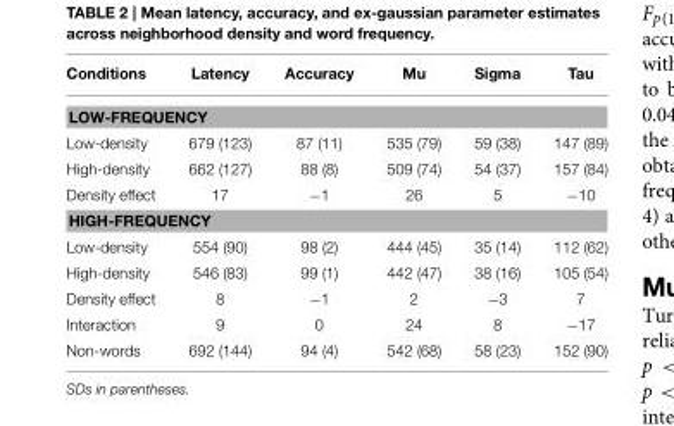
<table><thead><tr><td>Conditions</td><td>Latency</td><td>Accuracy</td><td>Mu</td><td>Sigma</td><td>Tau</td></tr></thead><tbody><tr><td colspan="6">LOW-FREQUENCY</td></tr><tr><td>Low-density</td><td>679 (123)</td><td>87 (11)</td><td>535 (79)</td><td>59 (38)</td><td>147 (89)</td></tr><tr><td>High-density</td><td>662 (127)</td><td>88 (8)</td><td>509 (74)</td><td>54 (37)</td><td>157 (84)</td></tr><tr><td>Density effect</td><td>17</td><td>−1</td><td>26</td><td>5</td><td>−10</td></tr><tr><td colspan="6">HIGH-FREQUENCY</td></tr><tr><td>Low-density</td><td>554 (90)</td><td>98 (2)</td><td>444 (45)</td><td>35 (14)</td><td>112 (62)</td></tr><tr><td>High-density</td><td>546 (83)</td><td>99 (1)</td><td>442 (47)</td><td>38 (16)</td><td>105 (54)</td></tr><tr><td>Density effect</td><td>8</td><td>−1</td><td>2</td><td>−3</td><td>7</td></tr><tr><td>Interaction</td><td>9</td><td>0</td><td>24</td><td>8</td><td>−17</td></tr><tr><td>Non-words</td><td>692 (144)</td><td>94 (4)</td><td>542 (68)</td><td>58 (23)</td><td>152 (90)</td></tr></tbody></table>